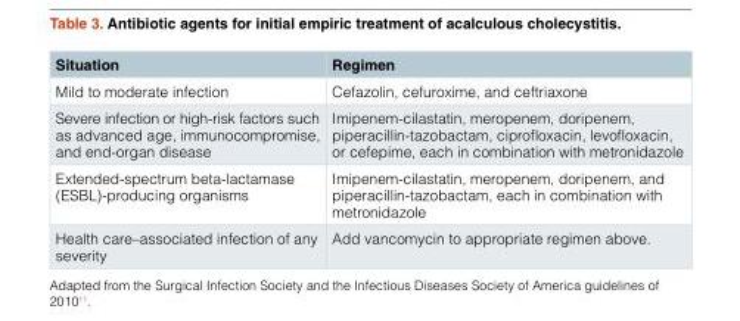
<table><thead><tr><td>Situation</td><td>Regimen</td></tr></thead><tbody><tr><td>Mild to moderate infection</td><td>Cefazolin, cefuroxime, and ceftriaxone</td></tr><tr><td>Severe infection or high-risk factors such as advanced age, immunocompromise, and end-organ disease</td><td>Imipenem-cilastatin, meropenem, doripenem, piperacillin-tazobactam, ciprofloxacin, levofloxacin, or cefepime, each in combination with metronidazole</td></tr><tr><td>Extended-spectrum beta-lactamase (ESBL)-producing organisms</td><td>Imipenem-cilastatin, meropenem, doripenem, and piperacillin-tazobactam, each in combination with metronidazole</td></tr><tr><td>Health care–associated infection of any severity</td><td>Add vancomycin to appropriate regimen above.</td></tr></tbody></table>